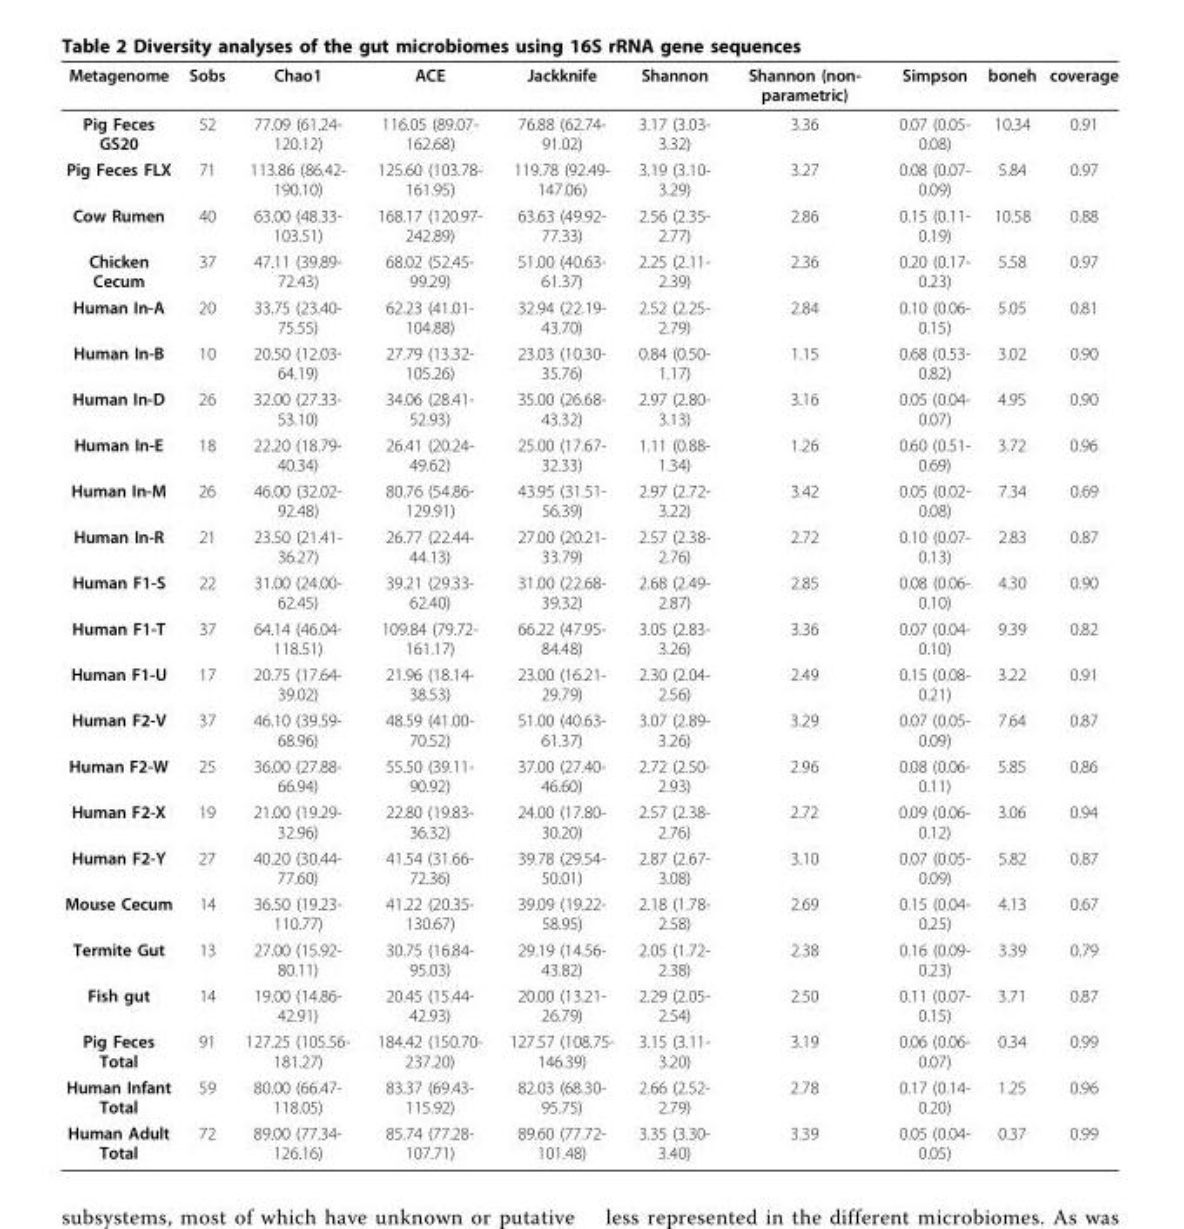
<table><thead><tr><td>Metagenome</td><td>Sobs</td><td>Chao1</td><td>ACE</td><td>Jackknife</td><td>Shannon</td><td>Shannon (non- parametric)</td><td>Simpson</td><td>boneh</td><td>coverage</td></tr></thead><tbody><tr><td>Pig Feces GS20</td><td>52</td><td>77.09 (61.24- 120.12)</td><td>116.05 (89.07- 162.68)</td><td>76.88 (62.74- 91.02)</td><td>3.17 (3.03- 3.32)</td><td>3.36</td><td>0.07 (0.05- 0.08)</td><td>10.34</td><td>0.91</td></tr><tr><td>Pig Feces FLX</td><td>71</td><td>113.86 (86.42- 190.10)</td><td>125.60 (103.78- 161.95)</td><td>119.78 (92.49- 147.06)</td><td>3.19 (3.10- 3.29)</td><td>3.27</td><td>0.08 (0.07- 0.09)</td><td>5.84</td><td>0.97</td></tr><tr><td>Cow Rumen</td><td>40</td><td>63.00 (48.33- 103.51)</td><td>168.17 (120.97- 242.89)</td><td>63.63 (49.92- 77.33)</td><td>2.56 (2.35- 2.77)</td><td>2.86</td><td>0.15 (0.11- 0.19)</td><td>10.58</td><td>0.88</td></tr><tr><td>Chicken Cecum</td><td>37</td><td>47.11 (39.89- 72.43)</td><td>68.02 (52.45- 99.29)</td><td>51.00 (40.63- 61.37)</td><td>2.25 (2.11- 2.39)</td><td>2.36</td><td>0.20 (0.17- 0.23)</td><td>5.58</td><td>0.97</td></tr><tr><td>Human In-A</td><td>20</td><td>33.75 (23.40- 75.55)</td><td>62.23 (41.01- 104.88)</td><td>32.94 (22.19- 43.70)</td><td>2.52 (2.25- 2.79)</td><td>2.84</td><td>0.10 (0.06- 0.15)</td><td>5.05</td><td>0.81</td></tr><tr><td>Human In-B</td><td>10</td><td>20.50 (12.03- 64.19)</td><td>27.79 (13.32- 105.26)</td><td>23.03 (10.30- 35.76)</td><td>0.84 (0.50- 1.17)</td><td>1.15</td><td>0.68 (0.53- 0.82)</td><td>3.02</td><td>0.90</td></tr><tr><td>Human In-D</td><td>26</td><td>32.00 (27.33- 53.10)</td><td>34.06 (28.41- 52.93)</td><td>35.00 (26.68- 43.32)</td><td>2.97 (2.80- 3.13)</td><td>3.16</td><td>0.05 (0.04- 0.07)</td><td>4.95</td><td>0.90</td></tr><tr><td>Human In-E</td><td>18</td><td>22.20 (18.79- 40.34)</td><td>26.41 (20.24- 49.62)</td><td>25.00 (17.67- 32.33)</td><td>1.11 (0.88- 1.34)</td><td>1.26</td><td>0.60 (0.51- 0.69)</td><td>3.72</td><td>0.96</td></tr><tr><td>Human In-M</td><td>26</td><td>46.00 (32.02- 92.48)</td><td>80.76 (54.86- 129.91)</td><td>43.95 (31.51- 56.39)</td><td>2.97 (2.72- 3.22)</td><td>3.42</td><td>0.05 (0.02- 0.08)</td><td>7.34</td><td>0.69</td></tr><tr><td>Human In-R</td><td>21</td><td>23.50 (21.41- 36.27)</td><td>26.77 (22.44- 44.13)</td><td>27.00 (20.21- 33.79)</td><td>2.57 (2.38- 2.76)</td><td>2.72</td><td>0.10 (0.07- 0.13)</td><td>2.83</td><td>0.87</td></tr><tr><td>Human F1-S</td><td>22</td><td>31.00 (24.00- 62.45)</td><td>39.21 (29.33- 62.40)</td><td>31.00 (22.68- 39.32)</td><td>2.68 (2.49- 2.87)</td><td>2.85</td><td>0.08 (0.06- 0.10)</td><td>4.30</td><td>0.90</td></tr><tr><td>Human F1-T</td><td>37</td><td>64.14 (46.04- 118.51)</td><td>109.84 (79.72- 161.17)</td><td>66.22 (47.95- 84.48)</td><td>3.05 (2.83- 3.26)</td><td>3.36</td><td>0.07 (0.04- 0.10)</td><td>9.39</td><td>0.82</td></tr><tr><td>Human F1-U</td><td>17</td><td>20.75 (17.64- 39.02)</td><td>21.96 (18.14- 38.53)</td><td>23.00 (16.21- 29.79)</td><td>2.30 (2.04- 2.56)</td><td>2.49</td><td>0.15 (0.08- 0.21)</td><td>3.22</td><td>0.91</td></tr><tr><td>Human F2-V</td><td>37</td><td>46.10 (39.59- 68.96)</td><td>48.59 (41.00- 70.52)</td><td>51.00 (40.63- 61.37)</td><td>3.07 (2.89- 3.26)</td><td>3.29</td><td>0.07 (0.05- 0.09)</td><td>7.64</td><td>0.87</td></tr><tr><td>Human F2-W</td><td>25</td><td>36.00 (27.88- 66.94)</td><td>55.50 (39.11- 90.92)</td><td>37.00 (27.40- 46.60)</td><td>2.72 (2.50- 2.93)</td><td>2.96</td><td>0.08 (0.06- 0.11)</td><td>5.85</td><td>0.86</td></tr><tr><td>Human F2-X</td><td>19</td><td>21.00 (19.29- 32.96)</td><td>22.80 (19.83- 36.32)</td><td>24.00 (17.80- 30.20)</td><td>2.57 (2.38- 2.76)</td><td>2.72</td><td>0.09 (0.06- 0.12)</td><td>3.06</td><td>0.94</td></tr><tr><td>Human F2-Y</td><td>27</td><td>40.20 (30.44- 77.60)</td><td>41.54 (31.66- 72.36)</td><td>39.78 (29.54- 50.01)</td><td>2.87 (2.67- 3.08)</td><td>3.10</td><td>0.07 (0.05- 0.09)</td><td>5.82</td><td>0.87</td></tr><tr><td>Mouse Cecum</td><td>14</td><td>36.50 (19.23- 110.77)</td><td>41.22 (20.35- 130.67)</td><td>39.09 (19.22- 58.95)</td><td>2.18 (1.78- 2.58)</td><td>2.69</td><td>0.15 (0.04- 0.25)</td><td>4.13</td><td>0.67</td></tr><tr><td>Termite Gut</td><td>13</td><td>27.00 (15.92- 80.11)</td><td>30.75 (16.84- 95.03)</td><td>29.19 (14.56- 43.82)</td><td>2.05 (1.72- 2.38)</td><td>2.38</td><td>0.16 (0.09- 0.23)</td><td>3.39</td><td>0.79</td></tr><tr><td>Fish gut</td><td>14</td><td>19.00 (14.86- 42.91)</td><td>20.45 (15.44- 42.93)</td><td>20.00 (13.21- 26.79)</td><td>2.29 (2.05- 2.54)</td><td>2.50</td><td>0.11 (0.07- 0.15)</td><td>3.71</td><td>0.87</td></tr><tr><td>Pig Feces Total</td><td>91</td><td>127.25 (105.56- 181.27)</td><td>184.42 (150.70- 237.20)</td><td>127.57 (108.75- 146.39)</td><td>3.15 (3.11- 3.20)</td><td>3.19</td><td>0.06 (0.06- 0.07)</td><td>0.34</td><td>0.99</td></tr><tr><td>Human Infant Total</td><td>59</td><td>80.00 (66.47- 118.05)</td><td>83.37 (69.43- 115.92)</td><td>82.03 (68.30- 95.75)</td><td>2.66 (2.52- 2.79)</td><td>2.78</td><td>0.17 (0.14- 0.20)</td><td>1.25</td><td>0.96</td></tr><tr><td>Human Adult Total</td><td>72</td><td>89.00 (77.34- 126.16)</td><td>85.74 (77.28- 107.71)</td><td>89.60 (77.72- 101.48)</td><td>3.35 (3.30- 3.40)</td><td>3.39</td><td>0.05 (0.04- 0.05)</td><td>0.37</td><td>0.99</td></tr></tbody></table>